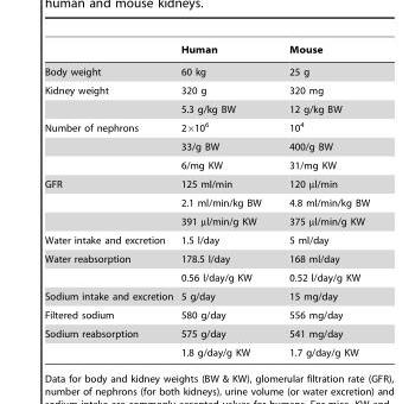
<table><thead><tr><td></td><td>Human</td><td>Mouse</td></tr></thead><tbody><tr><td>Body weight</td><td>60 kg</td><td>25 g</td></tr><tr><td rowspan="2">Kidney weight</td><td>320 g</td><td>320 mg</td></tr><tr><td>5.3 g/kg BW</td><td>12 g/kg BW</td></tr><tr><td rowspan="3">Number of nephrons</td><td>2×10<sup>6</sup></td><td>10<sup>4</sup></td></tr><tr><td>33/g BW</td><td>400/g BW</td></tr><tr><td>6/mg KW</td><td>31/mg KW</td></tr><tr><td rowspan="3">GFR</td><td>125 ml/min</td><td>120 µl/min</td></tr><tr><td>2.1 ml/min/kg BW</td><td>4.8 ml/min/kg BW</td></tr><tr><td>391 µl/min/g KW</td><td>375 µl/min/g KW</td></tr><tr><td>Water intake and excretion</td><td>1.5 l/day</td><td>5 ml/day</td></tr><tr><td rowspan="2">Water reabsorption</td><td>178.5 l/day</td><td>168 ml/day</td></tr><tr><td>0.56 l/day/g KW</td><td>0.52 l/day/g KW</td></tr><tr><td>Sodium intake and excretion</td><td>5 g/day</td><td>15 mg/day</td></tr><tr><td>Filtered sodium</td><td>580 g/day</td><td>556 mg/day</td></tr><tr><td rowspan="2">Sodium reabsorption</td><td>575 g/day</td><td>541 mg/day</td></tr><tr><td>1.8 g/day/g KW</td><td>1.7 g/day/g KW</td></tr></tbody></table>